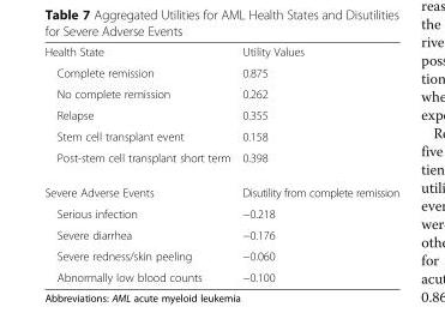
<table><tbody><tr><td>Health State</td><td>Utility Values</td></tr><tr><td>Complete remission</td><td>0.875</td></tr><tr><td>No complete remission</td><td>0.262</td></tr><tr><td>Relapse</td><td>0.355</td></tr><tr><td>Stem cell transplant event</td><td>0.158</td></tr><tr><td>Post-stem cell transplant short term</td><td>0.398</td></tr><tr><td>Severe Adverse Events</td><td>Disutility from complete remission</td></tr><tr><td>Serious infection</td><td>−0.218</td></tr><tr><td>Severe diarrhea</td><td>−0.176</td></tr><tr><td>Severe redness/skin peeling</td><td>−0.060</td></tr><tr><td>Abnormally low blood counts</td><td>−0.100</td></tr></tbody></table>